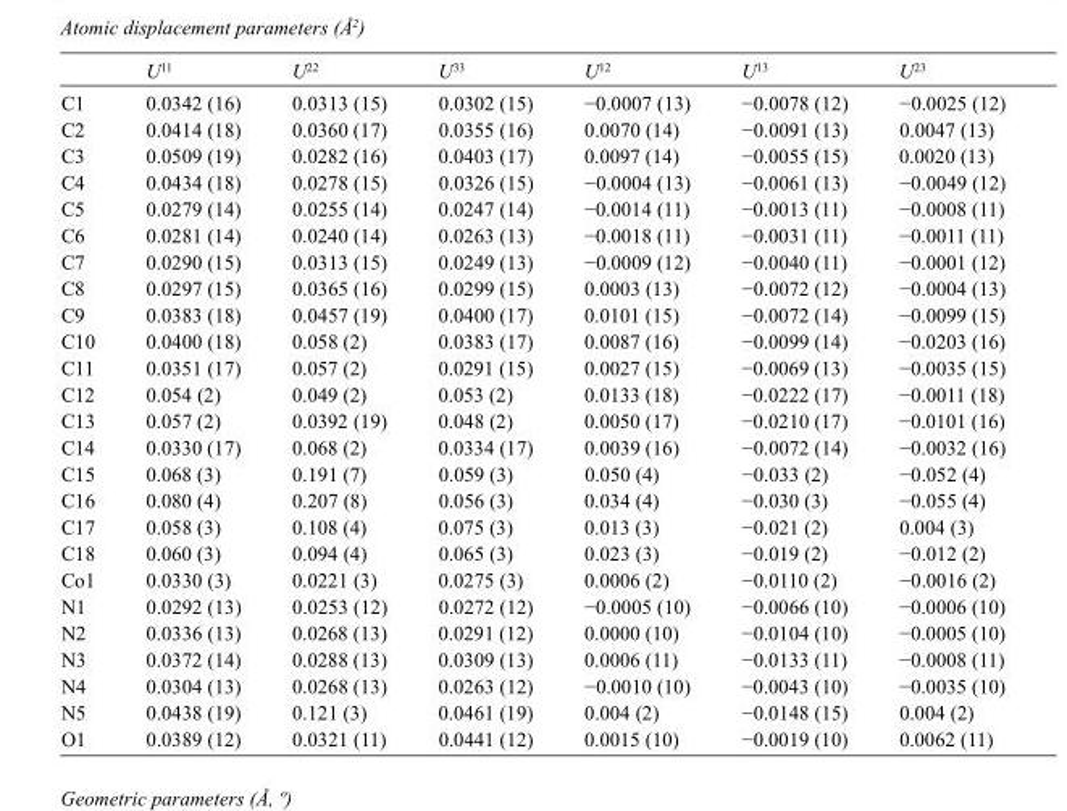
<table><thead><tr><td></td><td>U<sup>11</sup></td><td>U<sup>22</sup></td><td>U<sup>33</sup></td><td>U<sup>12</sup></td><td>U<sup>13</sup></td><td>U<sup>23</sup></td></tr></thead><tbody><tr><td>C1</td><td>0.0342 (16)</td><td>0.0313 (15)</td><td>0.0302 (15)</td><td>−0.0007 (13)</td><td>−0.0078 (12)</td><td>−0.0025 (12)</td></tr><tr><td>C2</td><td>0.0414 (18)</td><td>0.0360 (17)</td><td>0.0355 (16)</td><td>0.0070 (14)</td><td>−0.0091 (13)</td><td>0.0047 (13)</td></tr><tr><td>C3</td><td>0.0509 (19)</td><td>0.0282 (16)</td><td>0.0403 (17)</td><td>0.0097 (14)</td><td>−0.0055 (15)</td><td>0.0020 (13)</td></tr><tr><td>C4</td><td>0.0434 (18)</td><td>0.0278 (15)</td><td>0.0326 (15)</td><td>−0.0004 (13)</td><td>−0.0061 (13)</td><td>−0.0049 (12)</td></tr><tr><td>C5</td><td>0.0279 (14)</td><td>0.0255 (14)</td><td>0.0247 (14)</td><td>−0.0014 (11)</td><td>−0.0013 (11)</td><td>−0.0008 (11)</td></tr><tr><td>C6</td><td>0.0281 (14)</td><td>0.0240 (14)</td><td>0.0263 (13)</td><td>−0.0018 (11)</td><td>−0.0031 (11)</td><td>−0.0011 (11)</td></tr><tr><td>C7</td><td>0.0290 (15)</td><td>0.0313 (15)</td><td>0.0249 (13)</td><td>−0.0009 (12)</td><td>−0.0040 (11)</td><td>−0.0001 (12)</td></tr><tr><td>C8</td><td>0.0297 (15)</td><td>0.0365 (16)</td><td>0.0299 (15)</td><td>0.0003 (13)</td><td>−0.0072 (12)</td><td>−0.0004 (13)</td></tr><tr><td>C9</td><td>0.0383 (18)</td><td>0.0457 (19)</td><td>0.0400 (17)</td><td>0.0101 (15)</td><td>−0.0072 (14)</td><td>−0.0099 (15)</td></tr><tr><td>C10</td><td>0.0400 (18)</td><td>0.058 (2)</td><td>0.0383 (17)</td><td>0.0087 (16)</td><td>−0.0099 (14)</td><td>−0.0203 (16)</td></tr><tr><td>C11</td><td>0.0351 (17)</td><td>0.057 (2)</td><td>0.0291 (15)</td><td>0.0027 (15)</td><td>−0.0069 (13)</td><td>−0.0035 (15)</td></tr><tr><td>C12</td><td>0.054 (2)</td><td>0.049 (2)</td><td>0.053 (2)</td><td>0.0133 (18)</td><td>−0.0222 (17)</td><td>−0.0011 (18)</td></tr><tr><td>C13</td><td>0.057 (2)</td><td>0.0392 (19)</td><td>0.048 (2)</td><td>0.0050 (17)</td><td>−0.0210 (17)</td><td>−0.0101 (16)</td></tr><tr><td>C14</td><td>0.0330 (17)</td><td>0.068 (2)</td><td>0.0334 (17)</td><td>0.0039 (16)</td><td>−0.0072 (14)</td><td>−0.0032 (16)</td></tr><tr><td>C15</td><td>0.068 (3)</td><td>0.191 (7)</td><td>0.059 (3)</td><td>0.050 (4)</td><td>−0.033 (2)</td><td>−0.052 (4)</td></tr><tr><td>C16</td><td>0.080 (4)</td><td>0.207 (8)</td><td>0.056 (3)</td><td>0.034 (4)</td><td>−0.030 (3)</td><td>−0.055 (4)</td></tr><tr><td>C17</td><td>0.058 (3)</td><td>0.108 (4)</td><td>0.075 (3)</td><td>0.013 (3)</td><td>−0.021 (2)</td><td>0.004 (3)</td></tr><tr><td>C18</td><td>0.060 (3)</td><td>0.094 (4)</td><td>0.065 (3)</td><td>0.023 (3)</td><td>−0.019 (2)</td><td>−0.012 (2)</td></tr><tr><td>Co1</td><td>0.0330 (3)</td><td>0.0221 (3)</td><td>0.0275 (3)</td><td>0.0006 (2)</td><td>−0.0110 (2)</td><td>−0.0016 (2)</td></tr><tr><td>N1</td><td>0.0292 (13)</td><td>0.0253 (12)</td><td>0.0272 (12)</td><td>−0.0005 (10)</td><td>−0.0066 (10)</td><td>−0.0006 (10)</td></tr><tr><td>N2</td><td>0.0336 (13)</td><td>0.0268 (13)</td><td>0.0291 (12)</td><td>0.0000 (10)</td><td>−0.0104 (10)</td><td>−0.0005 (10)</td></tr><tr><td>N3</td><td>0.0372 (14)</td><td>0.0288 (13)</td><td>0.0309 (13)</td><td>0.0006 (11)</td><td>−0.0133 (11)</td><td>−0.0008 (11)</td></tr><tr><td>N4</td><td>0.0304 (13)</td><td>0.0268 (13)</td><td>0.0263 (12)</td><td>−0.0010 (10)</td><td>−0.0043 (10)</td><td>−0.0035 (10)</td></tr><tr><td>N5</td><td>0.0438 (19)</td><td>0.121 (3)</td><td>0.0461 (19)</td><td>0.004 (2)</td><td>−0.0148 (15)</td><td>0.004 (2)</td></tr><tr><td>O1</td><td>0.0389 (12)</td><td>0.0321 (11)</td><td>0.0441 (12)</td><td>0.0015 (10)</td><td>−0.0019 (10)</td><td>0.0062 (11)</td></tr></tbody></table>